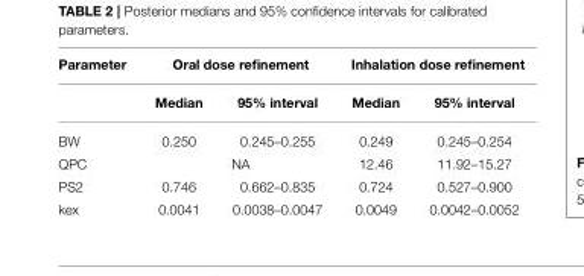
<table><thead><tr><td rowspan="2">Parameter</td><td colspan="2">Oral dose refinement</td><td colspan="2">Inhalation dose refinement</td></tr><tr><td>Median</td><td>95% interval</td><td>Median</td><td>95% interval</td></tr></thead><tbody><tr><td>BW</td><td>0.250</td><td>0.245–0.255</td><td>0.249</td><td>0.245–0.254</td></tr><tr><td>QPC</td><td colspan="2">NA</td><td>12.46</td><td>11.92–15.27</td></tr><tr><td>PS2</td><td>0.746</td><td>0.662–0.835</td><td>0.724</td><td>0.527–0.900</td></tr><tr><td>kex</td><td>0.0041</td><td>0.0038–0.0047</td><td>0.0049</td><td>0.0042–0.0052</td></tr></tbody></table>